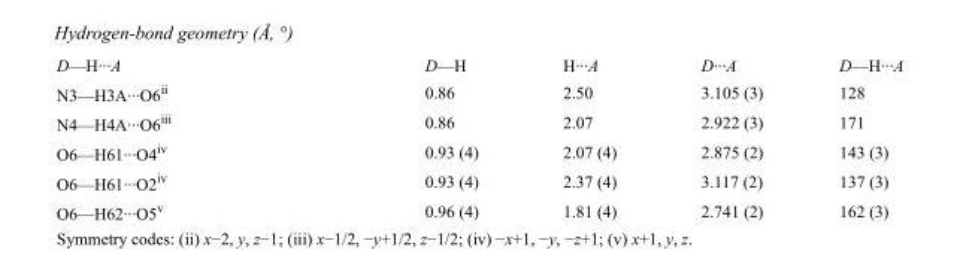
<table><tbody><tr><td>D—H···A</td><td>D—H</td><td>H···A</td><td>D···A</td><td>D—H···A</td></tr><tr><td>N3—H3A···O6<sup>ii</sup></td><td>0.86</td><td>2.50</td><td>3.105 (3)</td><td>128</td></tr><tr><td>N4—H4A···O6<sup>iii</sup></td><td>0.86</td><td>2.07</td><td>2.922 (3)</td><td>171</td></tr><tr><td>O6—H61···O4<sup>iv</sup></td><td>0.93 (4)</td><td>2.07 (4)</td><td>2.875 (2)</td><td>143 (3)</td></tr><tr><td>O6—H61···O2<sup>iv</sup></td><td>0.93 (4)</td><td>2.37 (4)</td><td>3.117 (2)</td><td>137 (3)</td></tr><tr><td>O6—H62···O5<sup>v</sup></td><td>0.96 (4)</td><td>1.81 (4)</td><td>2.741 (2)</td><td>162 (3)</td></tr></tbody></table>